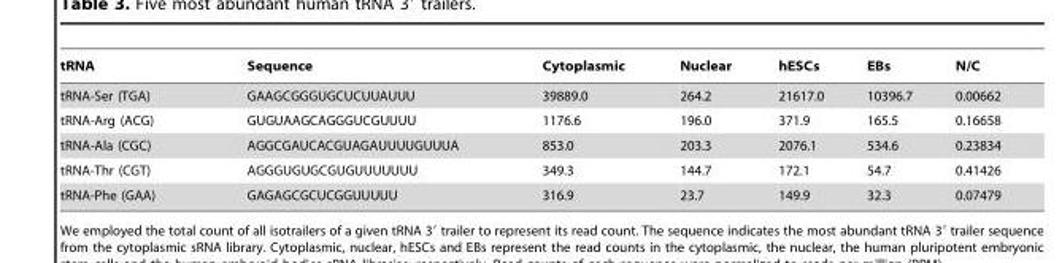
<table><thead><tr><td>tRNA</td><td>Sequence</td><td>Cytoplasmic</td><td>Nuclear</td><td>hESCs</td><td>EBs</td><td>N/C</td></tr></thead><tbody><tr><td>tRNA-Ser (TGA)</td><td>GAAGCGGGUGCUCUUAUUU</td><td>39889.0</td><td>264.2</td><td>21617.0</td><td>10396.7</td><td>0.00662</td></tr><tr><td>tRNA-Arg (ACG)</td><td>GUGUAAGCAGGGUCGUUUU</td><td>1176.6</td><td>196.0</td><td>371.9</td><td>165.5</td><td>0.16658</td></tr><tr><td>tRNA-Ala (CGC)</td><td>AGGCGAUCACGUAGAUUUUGUUUA</td><td>853.0</td><td>203.3</td><td>2076.1</td><td>534.6</td><td>0.23834</td></tr><tr><td>tRNA-Thr (CGT)</td><td>AGGGUGUGCGUGUUUUUUU</td><td>349.3</td><td>144.7</td><td>172.1</td><td>54.7</td><td>0.41426</td></tr><tr><td>tRNA-Phe (GAA)</td><td>GAGAGCGCUCGGUUUUU</td><td>316.9</td><td>23.7</td><td>149.9</td><td>32.3</td><td>0.07479</td></tr></tbody></table>